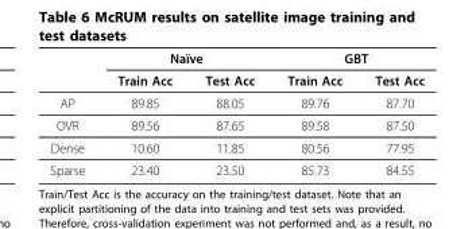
<table><thead><tr><td rowspan="2"></td><td colspan="2">Naïve</td><td colspan="2">GBT</td></tr><tr><td>Train Acc</td><td>Test Acc</td><td>Train Acc</td><td>Test Acc</td></tr></thead><tbody><tr><td>AP</td><td>89.85</td><td>88.05</td><td>89.76</td><td>87.70</td></tr><tr><td>OVR</td><td>89.56</td><td>87.65</td><td>89.58</td><td>87.50</td></tr><tr><td>Dense</td><td>10.60</td><td>11.85</td><td>80.56</td><td>77.95</td></tr><tr><td>Sparse</td><td>23.40</td><td>23.50</td><td>85.73</td><td>84.55</td></tr></tbody></table>